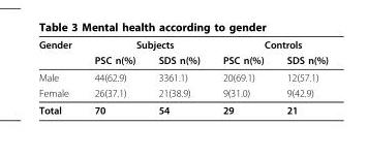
<table><thead><tr><td rowspan="2">Gender</td><td colspan="2">Subjects</td><td colspan="2">Controls</td></tr><tr><td>PSC n(%)</td><td>SDS n(%)</td><td>PSC n(%)</td><td>SDS n(%)</td></tr></thead><tbody><tr><td>Male</td><td>44(62.9)</td><td>3361.1)</td><td>20(69.1)</td><td>12(57.1)</td></tr><tr><td>Female</td><td>26(37.1)</td><td>21(38.9)</td><td>9(31.0)</td><td>9(42.9)</td></tr><tr><td>Total</td><td>70</td><td>54</td><td>29</td><td>21</td></tr></tbody></table>